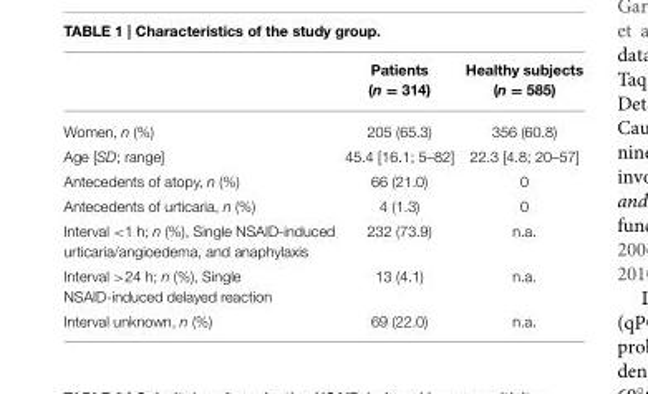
<table><thead><tr><td></td><td>Patients (n = 314)</td><td>Healthy subjects (n = 585)</td></tr></thead><tbody><tr><td>Women, n (%)</td><td>205 (65.3)</td><td>356 (60.8)</td></tr><tr><td>Age [SD; range]</td><td>45.4 [16.1; 5–82]</td><td>22.3 [4.8; 20–57]</td></tr><tr><td>Antecedents of atopy, n (%)</td><td>66 (21.0)</td><td>0</td></tr><tr><td>Antecedents of urticaria, n (%)</td><td>4 (1.3)</td><td>0</td></tr><tr><td>Interval &lt;1 h; n (%), Single NSAID-induced urticaria/angioedema, and anaphylaxis</td><td>232 (73.9)</td><td>n.a.</td></tr><tr><td>Interval &gt;24 h; n (%), Single NSAID-induced delayed reaction</td><td>13 (4.1)</td><td>n.a.</td></tr><tr><td>Interval unknown, n (%)</td><td>69 (22.0)</td><td>n.a.</td></tr></tbody></table>